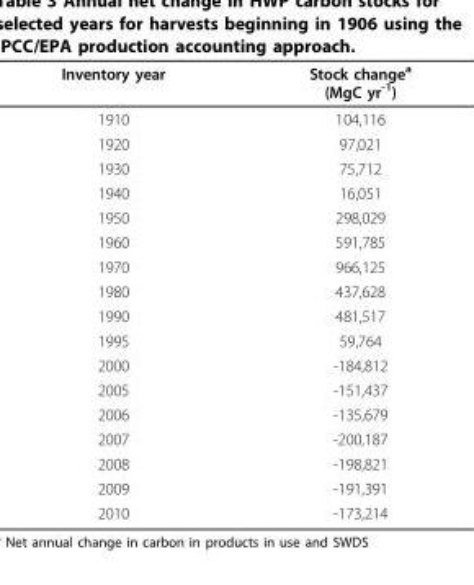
<table><thead><tr><td>Inventory year</td><td>Stock change<sup>a</sup> (MgC yr<sup>-1</sup>)</td></tr></thead><tbody><tr><td>1910</td><td>104,116</td></tr><tr><td>1920</td><td>97,021</td></tr><tr><td>1930</td><td>75,712</td></tr><tr><td>1940</td><td>16,051</td></tr><tr><td>1950</td><td>298,029</td></tr><tr><td>1960</td><td>591,785</td></tr><tr><td>1970</td><td>966,125</td></tr><tr><td>1980</td><td>437,628</td></tr><tr><td>1990</td><td>481,517</td></tr><tr><td>1995</td><td>59,764</td></tr><tr><td>2000</td><td>-184,812</td></tr><tr><td>2005</td><td>-151,437</td></tr><tr><td>2006</td><td>-135,679</td></tr><tr><td>2007</td><td>-200,187</td></tr><tr><td>2008</td><td>-198,821</td></tr><tr><td>2009</td><td>-191,391</td></tr><tr><td>2010</td><td>-173,214</td></tr></tbody></table>